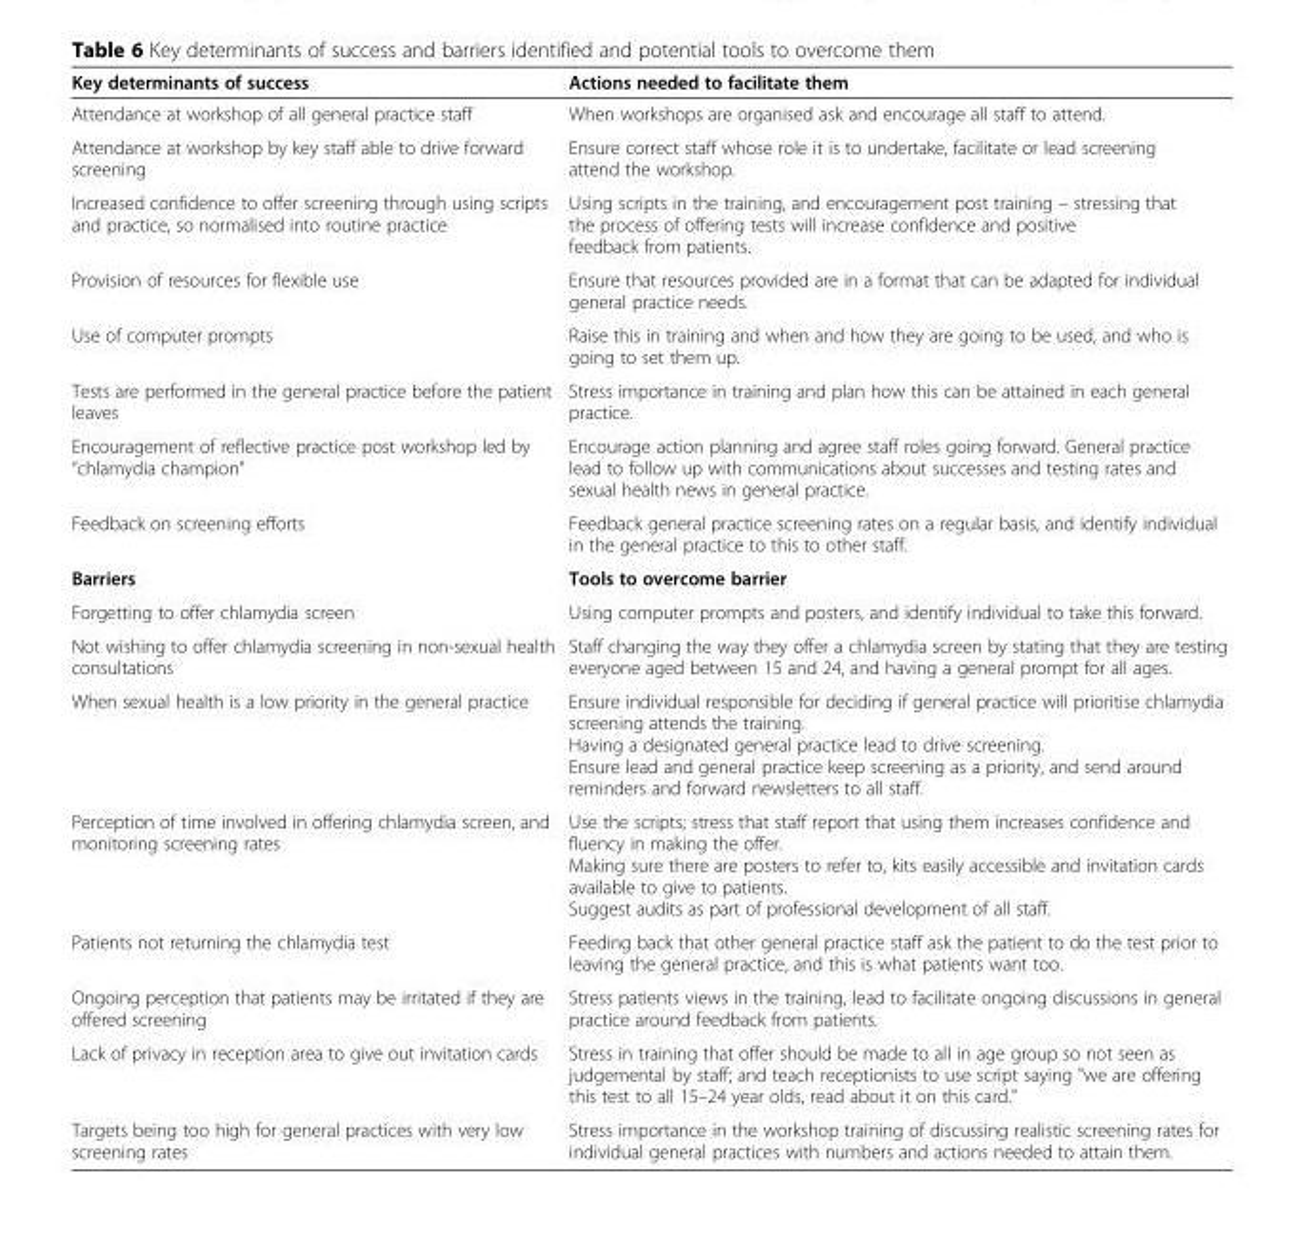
<table><thead><tr><td>Key determinants of success</td><td>Actions needed to facilitate them</td></tr></thead><tbody><tr><td>Attendance at workshop of all general practice staff</td><td>When workshops are organised ask and encourage all staff to attend.</td></tr><tr><td>Attendance at workshop by key staff able to drive forward screening</td><td>Ensure correct staff whose role it is to undertake, facilitate or lead screening attend the workshop.</td></tr><tr><td>Increased confidence to offer screening through using scripts and practice, so normalised into routine practice</td><td>Using scripts in the training, and encouragement post training – stressing that the process of offering tests will increase confidence and positive feedback from patients.</td></tr><tr><td>Provision of resources for flexible use</td><td>Ensure that resources provided are in a format that can be adapted for individual general practice needs.</td></tr><tr><td>Use of computer prompts</td><td>Raise this in training and when and how they are going to be used, and who is going to set them up.</td></tr><tr><td>Tests are performed in the general practice before the patient leaves</td><td>Stress importance in training and plan how this can be attained in each general practice.</td></tr><tr><td>Encouragement of reflective practice post workshop led by “chlamydia champion”</td><td>Encourage action planning and agree staff roles going forward. General practice lead to follow up with communications about successes and testing rates and sexual health news in general practice.</td></tr><tr><td>Feedback on screening efforts</td><td>Feedback general practice screening rates on a regular basis, and identify individual in the general practice to this to other staff.</td></tr><tr><td>Barriers</td><td>Tools to overcome barrier</td></tr><tr><td>Forgetting to offer chlamydia screen</td><td>Using computer prompts and posters, and identify individual to take this forward.</td></tr><tr><td>Not wishing to offer chlamydia screening in non-sexual health consultations</td><td>Staff changing the way they offer a chlamydia screen by stating that they are testing everyone aged between 15 and 24, and having a general prompt for all ages.</td></tr><tr><td>When sexual health is a low priority in the general practice</td><td>Ensure individual responsible for deciding if general practice will prioritise chlamydia screening attends the training. Having a designated general practice lead to drive screening. Ensure lead and general practice keep screening as a priority, and send around reminders and forward newsletters to all staff.</td></tr><tr><td>Perception of time involved in offering chlamydia screen, and monitoring screening rates</td><td>Use the scripts; stress that staff report that using them increases confidence and fluency in making the offer. Making sure there are posters to refer to, kits easily accessible and invitation cards available to give to patients. Suggest audits as part of professional development of all staff.</td></tr><tr><td>Patients not returning the chlamydia test</td><td>Feeding back that other general practice staff ask the patient to do the test prior to leaving the general practice, and this is what patients want too.</td></tr><tr><td>Ongoing perception that patients may be irritated if they are offered screening</td><td>Stress patients views in the training, lead to facilitate ongoing discussions in general practice around feedback from patients.</td></tr><tr><td>Lack of privacy in reception area to give out invitation cards</td><td>Stress in training that offer should be made to all in age group so not seen as judgemental by staff; and teach receptionists to use script saying &quot;we are offering this test to all 15–24 year olds, read about it on this card.&quot;</td></tr><tr><td>Targets being too high for general practices with very low screening rates</td><td>Stress importance in the workshop training of discussing realistic screening rates for individual general practices with numbers and actions needed to attain them.</td></tr></tbody></table>